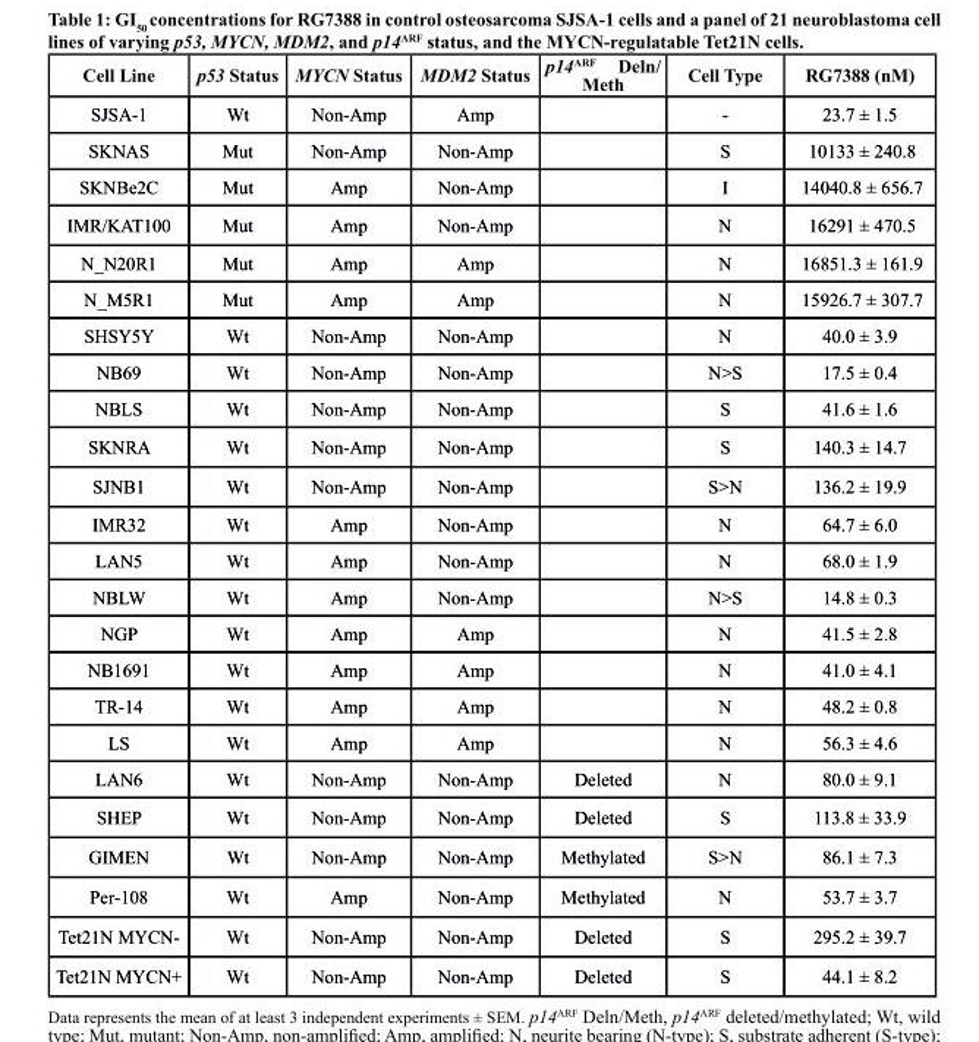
<table><thead><tr><td>cell line</td><td>p53 status</td><td>MYCN status</td><td>MDM2 status</td><td>p14<sup>ArF</sup> deln/ Meth</td><td>cell type</td><td>rG7388 (nM)</td></tr></thead><tbody><tr><td>SJSA-1</td><td>Wt</td><td>Non-Amp</td><td>Amp</td><td></td><td>-</td><td>23.7 ± 1.5</td></tr><tr><td>SKNAS</td><td>Mut</td><td>Non-Amp</td><td>Non-Amp</td><td></td><td>S</td><td>10133 ± 240.8</td></tr><tr><td>SKNBe2C</td><td>Mut</td><td>Amp</td><td>Non-Amp</td><td></td><td>I</td><td>14040.8 ± 656.7</td></tr><tr><td>IMR/KAT100</td><td>Mut</td><td>Amp</td><td>Non-Amp</td><td></td><td>N</td><td>16291 ± 470.5</td></tr><tr><td>N_N20R1</td><td>Mut</td><td>Amp</td><td>Amp</td><td></td><td>N</td><td>16851.3 ± 161.9</td></tr><tr><td>N_M5R1</td><td>Mut</td><td>Amp</td><td>Amp</td><td></td><td>N</td><td>15926.7 ± 307.7</td></tr><tr><td>SHSY5Y</td><td>Wt</td><td>Non-Amp</td><td>Non-Amp</td><td></td><td>N</td><td>40.0 ± 3.9</td></tr><tr><td>NB69</td><td>Wt</td><td>Non-Amp</td><td>Non-Amp</td><td></td><td>N&gt;S</td><td>17.5 ± 0.4</td></tr><tr><td>NBLS</td><td>Wt</td><td>Non-Amp</td><td>Non-Amp</td><td></td><td>S</td><td>41.6 ± 1.6</td></tr><tr><td>SKNRA</td><td>Wt</td><td>Non-Amp</td><td>Non-Amp</td><td></td><td>S</td><td>140.3 ± 14.7</td></tr><tr><td>SJNB1</td><td>Wt</td><td>Non-Amp</td><td>Non-Amp</td><td></td><td>S&gt;N</td><td>136.2 ± 19.9</td></tr><tr><td>IMR32</td><td>Wt</td><td>Amp</td><td>Non-Amp</td><td></td><td>N</td><td>64.7 ± 6.0</td></tr><tr><td>LAN5</td><td>Wt</td><td>Amp</td><td>Non-Amp</td><td></td><td>N</td><td>68.0 ± 1.9</td></tr><tr><td>NBLW</td><td>Wt</td><td>Amp</td><td>Non-Amp</td><td></td><td>N&gt;S</td><td>14.8 ± 0.3</td></tr><tr><td>NGP</td><td>Wt</td><td>Amp</td><td>Amp</td><td></td><td>N</td><td>41.5 ± 2.8</td></tr><tr><td>NB1691</td><td>Wt</td><td>Amp</td><td>Amp</td><td></td><td>N</td><td>41.0 ± 4.1</td></tr><tr><td>TR-14</td><td>Wt</td><td>Amp</td><td>Amp</td><td></td><td>N</td><td>48.2 ± 0.8</td></tr><tr><td>LS</td><td>Wt</td><td>Amp</td><td>Amp</td><td></td><td>N</td><td>56.3 ± 4.6</td></tr><tr><td>LAN6</td><td>Wt</td><td>Non-Amp</td><td>Non-Amp</td><td>Deleted</td><td>N</td><td>80.0 ± 9.1</td></tr><tr><td>SHEP</td><td>Wt</td><td>Non-Amp</td><td>Non-Amp</td><td>Deleted</td><td>S</td><td>113.8 ± 33.9</td></tr><tr><td>GIMEN</td><td>Wt</td><td>Non-Amp</td><td>Non-Amp</td><td>Methylated</td><td>S&gt;N</td><td>86.1 ± 7.3</td></tr><tr><td>Per-108</td><td>Wt</td><td>Amp</td><td>Non-Amp</td><td>Methylated</td><td>N</td><td>53.7 ± 3.7</td></tr><tr><td>Tet21N MYCN-</td><td>Wt</td><td>Non-Amp</td><td>Non-Amp</td><td>Deleted</td><td>S</td><td>295.2 ± 39.7</td></tr><tr><td>Tet21N MYCN+</td><td>Wt</td><td>Non-Amp</td><td>Non-Amp</td><td>Deleted</td><td>S</td><td>44.1 ± 8.2</td></tr></tbody></table>